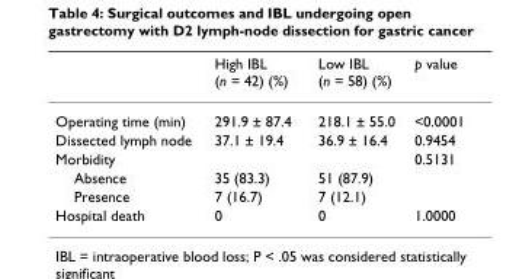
<table><thead><tr><td></td><td>High IBL (n = 42) (%)</td><td>Low IBL (n = 58) (%)</td><td>p value</td></tr></thead><tbody><tr><td>Operating time (min)</td><td>291.9 ± 87.4</td><td>218.1 ± 55.0</td><td>&lt;0.0001</td></tr><tr><td>Dissected lymph node</td><td>37.1 ± 19.4</td><td>36.9 ± 16.4</td><td>0.9454</td></tr><tr><td>Morbidity</td><td></td><td></td><td>0.5131</td></tr><tr><td>Absence</td><td>35 (83.3)</td><td>51 (87.9)</td><td></td></tr><tr><td>Presence</td><td>7 (16.7)</td><td>7 (12.1)</td><td></td></tr><tr><td>Hospital death</td><td>0</td><td>0</td><td>1.0000</td></tr></tbody></table>